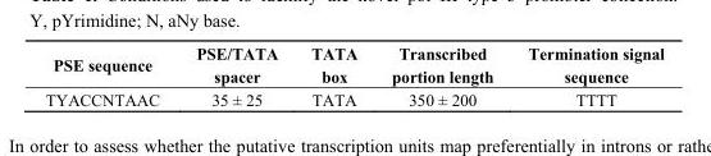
<table><thead><tr><td>PSE sequence</td><td>PSE/TATA spacer</td><td>TATA box</td><td>Transcribed portion length</td><td>Termination signal sequence</td></tr></thead><tbody><tr><td>TYACCNTAAC</td><td>35 ± 25</td><td>TATA</td><td>350 ± 200</td><td>TTTT</td></tr></tbody></table>